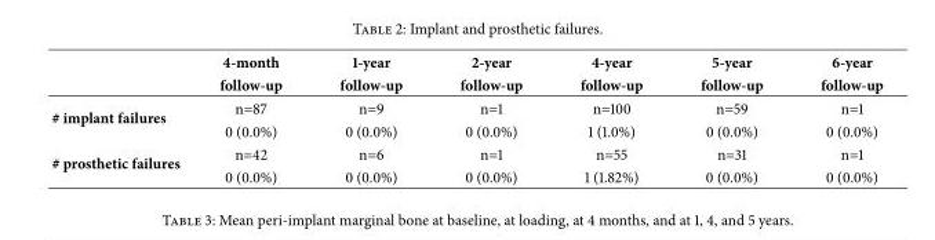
<table><thead><tr><td rowspan="2"></td><td rowspan="2">4-month follow-up</td><td rowspan="2">1-year follow-up</td><td rowspan="2">2-year follow-up</td><td rowspan="2">4-year follow-up</td><td rowspan="2">5-year follow-up</td><td rowspan="2">6-year follow-up</td></tr><tr></tr></thead><tbody><tr><td rowspan="2"># implant failures</td><td>n=87</td><td>n=9</td><td>n=1</td><td>n=100</td><td>n=59</td><td>n=1</td></tr><tr><td>0 (0.0%)</td><td>0 (0.0%)</td><td>0 (0.0%)</td><td>1 (1.0%)</td><td>0 (0.0%)</td><td>0 (0.0%)</td></tr><tr><td rowspan="2"># prosthetic failures</td><td>n=42</td><td>n=6</td><td>n=1</td><td>n=55</td><td>n=31</td><td>n=1</td></tr><tr><td>0 (0.0%)</td><td>0 (0.0%)</td><td>0 (0.0%)</td><td>1 (1.82%)</td><td>0 (0.0%)</td><td>0 (0.0%)</td></tr></tbody></table>